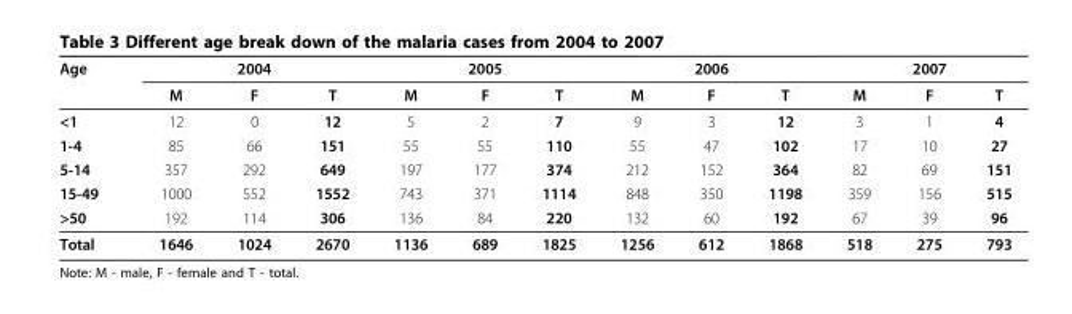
<table><thead><tr><td rowspan="2">Age</td><td colspan="3">2004</td><td colspan="3">2005</td><td colspan="3">2006</td><td colspan="3">2007</td></tr><tr><td>M</td><td>F</td><td>T</td><td>M</td><td>F</td><td>T</td><td>M</td><td>F</td><td>T</td><td>M</td><td>F</td><td>T</td></tr></thead><tbody><tr><td>&lt;1</td><td>12</td><td>0</td><td>12</td><td>5</td><td>2</td><td>7</td><td>9</td><td>3</td><td>12</td><td>3</td><td>1</td><td>4</td></tr><tr><td>1-4</td><td>85</td><td>66</td><td>151</td><td>55</td><td>55</td><td>110</td><td>55</td><td>47</td><td>102</td><td>17</td><td>10</td><td>27</td></tr><tr><td>5-14</td><td>357</td><td>292</td><td>649</td><td>197</td><td>177</td><td>374</td><td>212</td><td>152</td><td>364</td><td>82</td><td>69</td><td>151</td></tr><tr><td>15-49</td><td>1000</td><td>552</td><td>1552</td><td>743</td><td>371</td><td>1114</td><td>848</td><td>350</td><td>1198</td><td>359</td><td>156</td><td>515</td></tr><tr><td>&gt;50</td><td>192</td><td>114</td><td>306</td><td>136</td><td>84</td><td>220</td><td>132</td><td>60</td><td>192</td><td>67</td><td>39</td><td>96</td></tr><tr><td>Total</td><td>1646</td><td>1024</td><td>2670</td><td>1136</td><td>689</td><td>1825</td><td>1256</td><td>612</td><td>1868</td><td>518</td><td>275</td><td>793</td></tr></tbody></table>